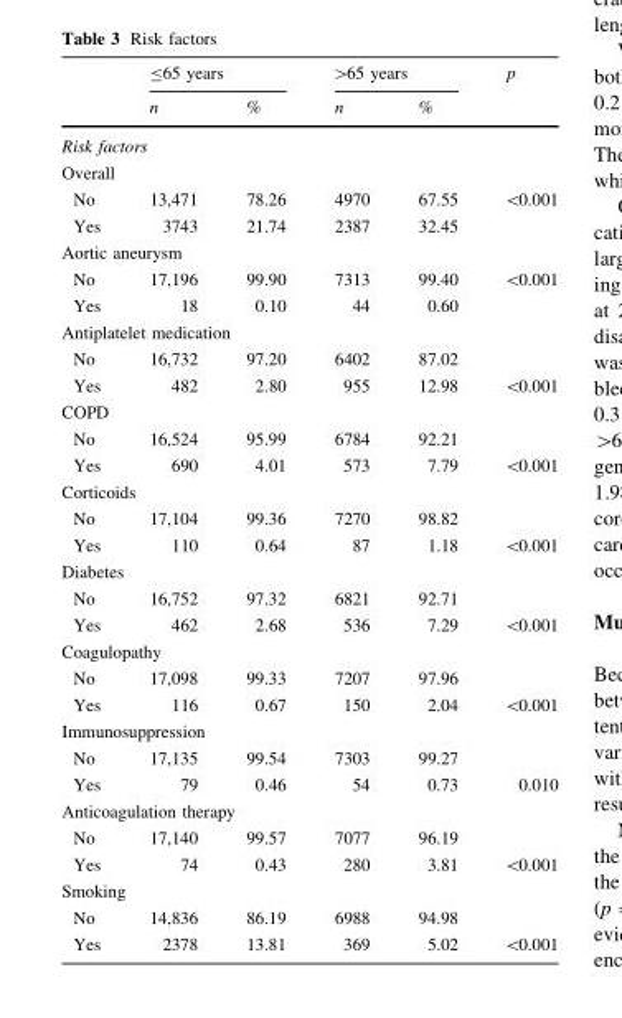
<table><thead><tr><td rowspan="2"></td><td colspan="2">≤65 years</td><td colspan="2">&gt;65 years</td><td rowspan="2">p</td></tr><tr><td>n</td><td>%</td><td>n</td><td>%</td></tr></thead><tbody><tr><td colspan="6">Risk factors</td></tr><tr><td colspan="6">Overall</td></tr><tr><td>No</td><td>13,471</td><td>78.26</td><td>4970</td><td>67.55</td><td>&lt;0.001</td></tr><tr><td>Yes</td><td>3743</td><td>21.74</td><td>2387</td><td>32.45</td><td></td></tr><tr><td colspan="6">Aortic aneurysm</td></tr><tr><td>No</td><td>17,196</td><td>99.90</td><td>7313</td><td>99.40</td><td>&lt;0.001</td></tr><tr><td>Yes</td><td>18</td><td>0.10</td><td>44</td><td>0.60</td><td></td></tr><tr><td colspan="6">Antiplatelet medication</td></tr><tr><td>No</td><td>16,732</td><td>97.20</td><td>6402</td><td>87.02</td><td></td></tr><tr><td>Yes</td><td>482</td><td>2.80</td><td>955</td><td>12.98</td><td>&lt;0.001</td></tr><tr><td colspan="6">COPD</td></tr><tr><td>No</td><td>16,524</td><td>95.99</td><td>6784</td><td>92.21</td><td></td></tr><tr><td>Yes</td><td>690</td><td>4.01</td><td>573</td><td>7.79</td><td>&lt;0.001</td></tr><tr><td colspan="6">Corticoids</td></tr><tr><td>No</td><td>17,104</td><td>99.36</td><td>7270</td><td>98.82</td><td></td></tr><tr><td>Yes</td><td>110</td><td>0.64</td><td>87</td><td>1.18</td><td>&lt;0.001</td></tr><tr><td colspan="6">Diabetes</td></tr><tr><td>No</td><td>16,752</td><td>97.32</td><td>6821</td><td>92.71</td><td></td></tr><tr><td>Yes</td><td>462</td><td>2.68</td><td>536</td><td>7.29</td><td>&lt;0.001</td></tr><tr><td colspan="6">Coagulopathy</td></tr><tr><td>No</td><td>17,098</td><td>99.33</td><td>7207</td><td>97.96</td><td></td></tr><tr><td>Yes</td><td>116</td><td>0.67</td><td>150</td><td>2.04</td><td>&lt;0.001</td></tr><tr><td colspan="6">Immunosuppression</td></tr><tr><td>No</td><td>17,135</td><td>99.54</td><td>7303</td><td>99.27</td><td></td></tr><tr><td>Yes</td><td>79</td><td>0.46</td><td>54</td><td>0.73</td><td>0.010</td></tr><tr><td colspan="6">Anticoagulation therapy</td></tr><tr><td>No</td><td>17,140</td><td>99.57</td><td>7077</td><td>96.19</td><td></td></tr><tr><td>Yes</td><td>74</td><td>0.43</td><td>280</td><td>3.81</td><td>&lt;0.001</td></tr><tr><td colspan="6">Smoking</td></tr><tr><td>No</td><td>14,836</td><td>86.19</td><td>6988</td><td>94.98</td><td></td></tr><tr><td>Yes</td><td>2378</td><td>13.81</td><td>369</td><td>5.02</td><td>&lt;0.001</td></tr></tbody></table>